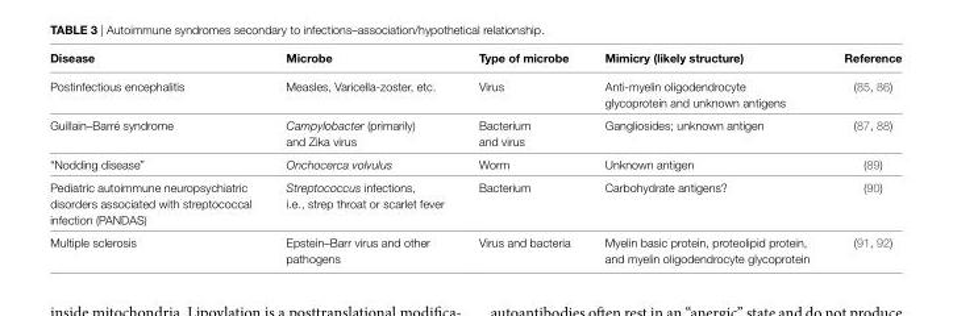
<table><thead><tr><td>disease</td><td>Microbe</td><td>type of microbe</td><td>Mimicry (likely structure)</td><td>reference</td></tr></thead><tbody><tr><td>Postinfectious encephalitis</td><td>Measles, Varicella-zoster, etc.</td><td>Virus</td><td>Anti-myelin oligodendrocyte glycoprotein and unknown antigens</td><td>(85, 86)</td></tr><tr><td>Guillain–Barré syndrome</td><td>Campylobacter (primarily) and Zika virus</td><td>Bacterium and virus</td><td>Gangliosides; unknown antigen</td><td>(87, 88)</td></tr><tr><td>“Nodding disease”</td><td>Onchocerca volvulus</td><td>Worm</td><td>Unknown antigen</td><td>(89)</td></tr><tr><td>Pediatric autoimmune neuropsychiatric disorders associated with streptococcal infection (PANDAS)</td><td>Streptococcus infections, i.e., strep throat or scarlet fever</td><td>Bacterium</td><td>Carbohydrate antigens?</td><td>(90)</td></tr><tr><td>Multiple sclerosis</td><td>Epstein–Barr virus and other pathogens</td><td>Virus and bacteria</td><td>Myelin basic protein, proteolipid protein, and myelin oligodendrocyte glycoprotein</td><td>(91, 92)</td></tr></tbody></table>